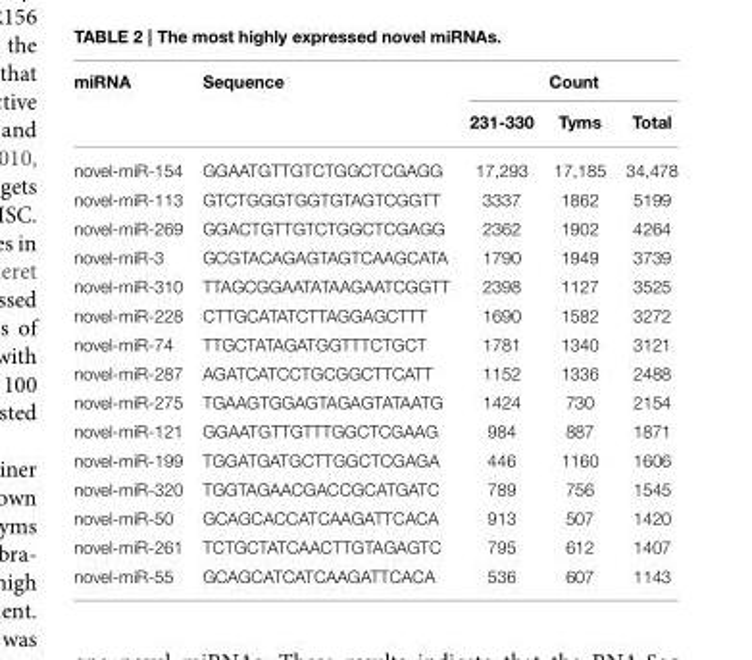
<table><thead><tr><td rowspan="2">miRNA</td><td rowspan="2">Sequence</td><td colspan="3">Count</td></tr><tr><td>231-330</td><td>Tyms</td><td>Total</td></tr></thead><tbody><tr><td>novel-miR-154</td><td>GGAATGTTGTCTGGCTCGAGG</td><td>17,293</td><td>17,185</td><td>34,478</td></tr><tr><td>novel-miR-113</td><td>GTCTGGGTGGTGTAGTCGGTT</td><td>3337</td><td>1862</td><td>5199</td></tr><tr><td>novel-miR-269</td><td>GGACTGTTGTCTGGCTCGAGG</td><td>2362</td><td>1902</td><td>4264</td></tr><tr><td>novel-miR-3</td><td>GCGTACAGAGTAGTCAAGCATA</td><td>1790</td><td>1949</td><td>3739</td></tr><tr><td>novel-miR-310</td><td>TTAGCGGAATATAAGAATCGGTT</td><td>2398</td><td>1127</td><td>3525</td></tr><tr><td>novel-miR-228</td><td>CTTGCATATCTTAGGAGCTTT</td><td>1690</td><td>1582</td><td>3272</td></tr><tr><td>novel-miR-74</td><td>TTGCTATAGATGGTTTCTGCT</td><td>1781</td><td>1340</td><td>3121</td></tr><tr><td>novel-miR-287</td><td>AGATCATCCTGCGGCTTCATT</td><td>1152</td><td>1336</td><td>2488</td></tr><tr><td>novel-miR-275</td><td>TGAAGTGGAGTAGAGTATAATG</td><td>1424</td><td>730</td><td>2154</td></tr><tr><td>novel-miR-121</td><td>GGAATGTTGTTTGGCTCGAAG</td><td>984</td><td>887</td><td>1871</td></tr><tr><td>novel-miR-199</td><td>TGGATGATGCTTGGCTCGAGA</td><td>446</td><td>1160</td><td>1606</td></tr><tr><td>novel-miR-320</td><td>TGGTAGAACGACCGCATGATC</td><td>789</td><td>756</td><td>1545</td></tr><tr><td>novel-miR-50</td><td>GCAGCACCATCAAGATTCACA</td><td>913</td><td>507</td><td>1420</td></tr><tr><td>novel-miR-261</td><td>TCTGCTATCAACTTGTAGAGTC</td><td>795</td><td>612</td><td>1407</td></tr><tr><td>novel-miR-55</td><td>GCAGCATCATCAAGATTCACA</td><td>536</td><td>607</td><td>1143</td></tr></tbody></table>